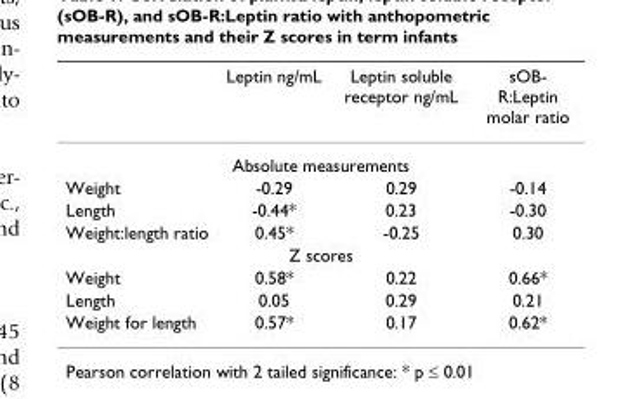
<table><thead><tr><td></td><td>Leptin ng/mL</td><td>Leptin soluble receptor ng/mL</td><td>sOB- R:Leptin molar ratio</td></tr></thead><tbody><tr><td colspan="4">Absolute measurements</td></tr><tr><td>Weight</td><td>-0.29</td><td>0.29</td><td>-0.14</td></tr><tr><td>Length</td><td>-0.44*</td><td>0.23</td><td>-0.30</td></tr><tr><td>Weight:length ratio</td><td>0.45*</td><td>-0.25</td><td>0.30</td></tr><tr><td colspan="4">Z scores</td></tr><tr><td>Weight</td><td>0.58*</td><td>0.22</td><td>0.66*</td></tr><tr><td>Length</td><td>0.05</td><td>0.29</td><td>0.21</td></tr><tr><td>Weight for length</td><td>0.57*</td><td>0.17</td><td>0.62*</td></tr></tbody></table>